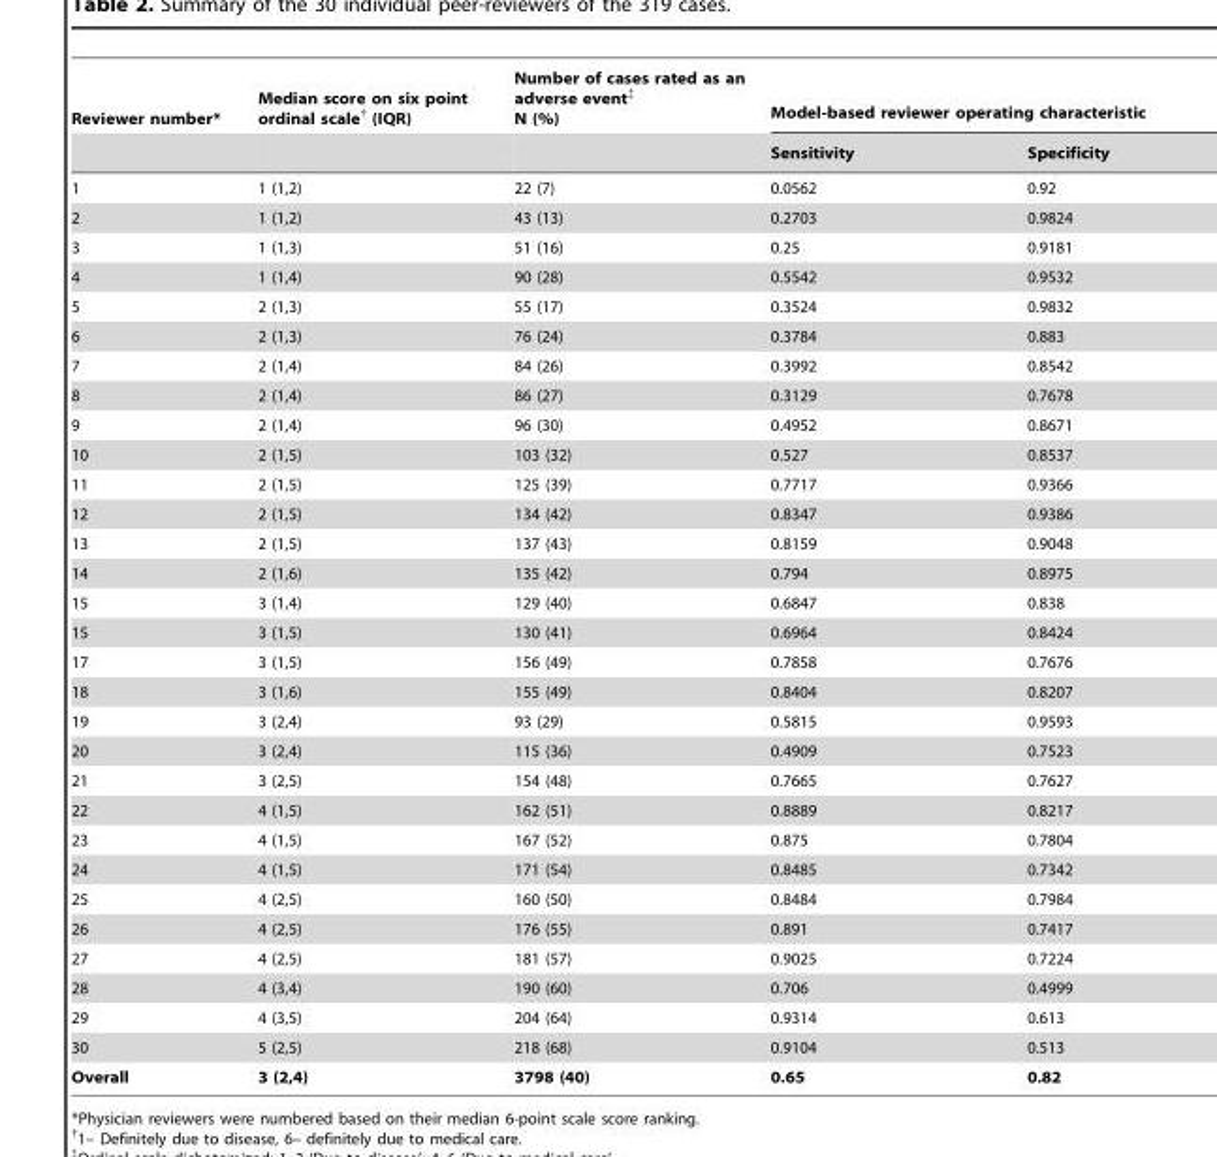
<table><thead><tr><td rowspan="2">Reviewer number*</td><td rowspan="2">Median score on six point ordinal scale† (IQR)</td><td rowspan="2">Number of cases rated as an adverse event‡ N (%)</td><td colspan="2">Model-based reviewer operating characteristic</td></tr><tr><td>Sensitivity</td><td>Specificity</td></tr></thead><tbody><tr><td>1</td><td>1 (1,2)</td><td>22 (7)</td><td>0.0562</td><td>0.92</td></tr><tr><td>2</td><td>1 (1,2)</td><td>43 (13)</td><td>0.2703</td><td>0.9824</td></tr><tr><td>3</td><td>1 (1,3)</td><td>51 (16)</td><td>0.25</td><td>0.9181</td></tr><tr><td>4</td><td>1 (1,4)</td><td>90 (28)</td><td>0.5542</td><td>0.9532</td></tr><tr><td>5</td><td>2 (1,3)</td><td>55 (17)</td><td>0.3524</td><td>0.9832</td></tr><tr><td>6</td><td>2 (1,3)</td><td>76 (24)</td><td>0.3784</td><td>0.883</td></tr><tr><td>7</td><td>2 (1,4)</td><td>84 (26)</td><td>0.3992</td><td>0.8542</td></tr><tr><td>8</td><td>2 (1,4)</td><td>86 (27)</td><td>0.3129</td><td>0.7678</td></tr><tr><td>9</td><td>2 (1,4)</td><td>96 (30)</td><td>0.4952</td><td>0.8671</td></tr><tr><td>10</td><td>2 (1,5)</td><td>103 (32)</td><td>0.527</td><td>0.8537</td></tr><tr><td>11</td><td>2 (1,5)</td><td>125 (39)</td><td>0.7717</td><td>0.9366</td></tr><tr><td>12</td><td>2 (1,5)</td><td>134 (42)</td><td>0.8347</td><td>0.9386</td></tr><tr><td>13</td><td>2 (1,5)</td><td>137 (43)</td><td>0.8159</td><td>0.9048</td></tr><tr><td>14</td><td>2 (1,6)</td><td>135 (42)</td><td>0.794</td><td>0.8975</td></tr><tr><td>15</td><td>3 (1,4)</td><td>129 (40)</td><td>0.6847</td><td>0.838</td></tr><tr><td>15</td><td>3 (1,5)</td><td>130 (41)</td><td>0.6964</td><td>0.8424</td></tr><tr><td>17</td><td>3 (1,5)</td><td>156 (49)</td><td>0.7858</td><td>0.7676</td></tr><tr><td>18</td><td>3 (1,6)</td><td>155 (49)</td><td>0.8404</td><td>0.8207</td></tr><tr><td>19</td><td>3 (2,4)</td><td>93 (29)</td><td>0.5815</td><td>0.9593</td></tr><tr><td>20</td><td>3 (2,4)</td><td>115 (36)</td><td>0.4909</td><td>0.7523</td></tr><tr><td>21</td><td>3 (2,5)</td><td>154 (48)</td><td>0.7665</td><td>0.7627</td></tr><tr><td>22</td><td>4 (1,5)</td><td>162 (51)</td><td>0.8889</td><td>0.8217</td></tr><tr><td>23</td><td>4 (1,5)</td><td>167 (52)</td><td>0.875</td><td>0.7804</td></tr><tr><td>24</td><td>4 (1,5)</td><td>171 (54)</td><td>0.8485</td><td>0.7342</td></tr><tr><td>25</td><td>4 (2,5)</td><td>160 (50)</td><td>0.8484</td><td>0.7984</td></tr><tr><td>26</td><td>4 (2,5)</td><td>176 (55)</td><td>0.891</td><td>0.7417</td></tr><tr><td>27</td><td>4 (2,5)</td><td>181 (57)</td><td>0.9025</td><td>0.7224</td></tr><tr><td>28</td><td>4 (3,4)</td><td>190 (60)</td><td>0.706</td><td>0.4999</td></tr><tr><td>29</td><td>4 (3,5)</td><td>204 (64)</td><td>0.9314</td><td>0.613</td></tr><tr><td>30</td><td>5 (2,5)</td><td>218 (68)</td><td>0.9104</td><td>0.513</td></tr><tr><td>Overall</td><td>3 (2,4)</td><td>3798 (40)</td><td>0.65</td><td>0.82</td></tr></tbody></table>